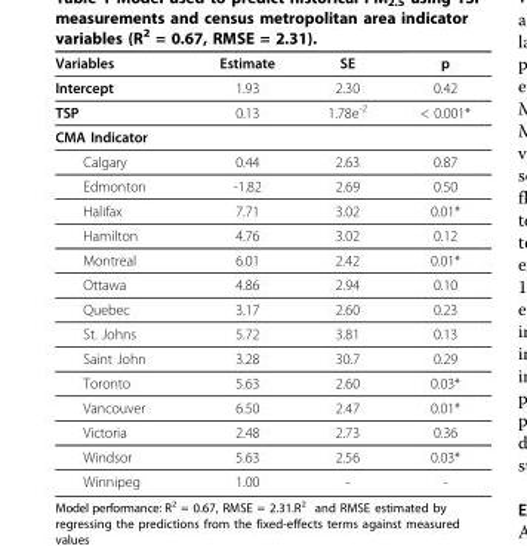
<table><tbody><tr><td>Variables</td><td>Estimate</td><td>SE</td><td>p</td></tr><tr><td>Intercept</td><td>1.93</td><td>2.30</td><td>0.42</td></tr><tr><td>TSP</td><td>0.13</td><td>1.78e<sup>-2</sup></td><td>&lt; 0.001*</td></tr><tr><td colspan="4">CMA Indicator</td></tr><tr><td>Calgary</td><td>0.44</td><td>2.63</td><td>0.87</td></tr><tr><td>Edmonton</td><td>-1.82</td><td>2.69</td><td>0.50</td></tr><tr><td>Halifax</td><td>7.71</td><td>3.02</td><td>0.01*</td></tr><tr><td>Hamilton</td><td>4.76</td><td>3.02</td><td>0.12</td></tr><tr><td>Montreal</td><td>6.01</td><td>2.42</td><td>0.01*</td></tr><tr><td>Ottawa</td><td>4.86</td><td>2.94</td><td>0.10</td></tr><tr><td>Quebec</td><td>3.17</td><td>2.60</td><td>0.23</td></tr><tr><td>St. Johns</td><td>5.72</td><td>3.81</td><td>0.13</td></tr><tr><td>Saint John</td><td>3.28</td><td>30.7</td><td>0.29</td></tr><tr><td>Toronto</td><td>5.63</td><td>2.60</td><td>0.03*</td></tr><tr><td>Vancouver</td><td>6.50</td><td>2.47</td><td>0.01*</td></tr><tr><td>Victoria</td><td>2.48</td><td>2.73</td><td>0.36</td></tr><tr><td>Windsor</td><td>5.63</td><td>2.56</td><td>0.03*</td></tr><tr><td>Winnipeg</td><td>1.00</td><td>-</td><td>-</td></tr></tbody></table>